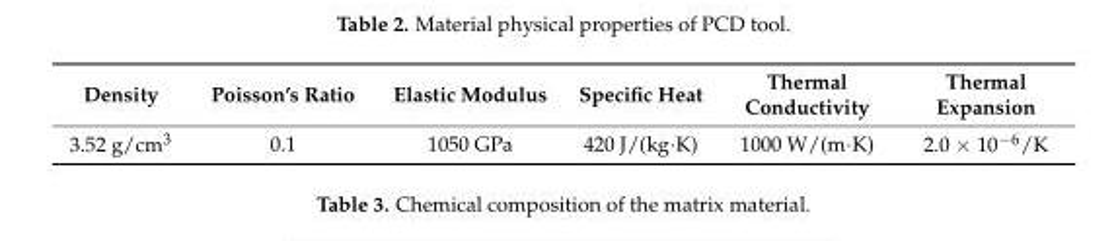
<table><thead><tr><td>Density</td><td>Poisson’s Ratio</td><td>Elastic Modulus</td><td>Specific Heat</td><td>Thermal Conductivity</td><td>Thermal Expansion</td></tr></thead><tbody><tr><td>3.52 g/cm<sup>3</sup></td><td>0.1</td><td>1050 GPa</td><td>420 J/(kg·K)</td><td>1000 W/(m·K)</td><td>2.0 × 10<sup>−6</sup>/K</td></tr></tbody></table>